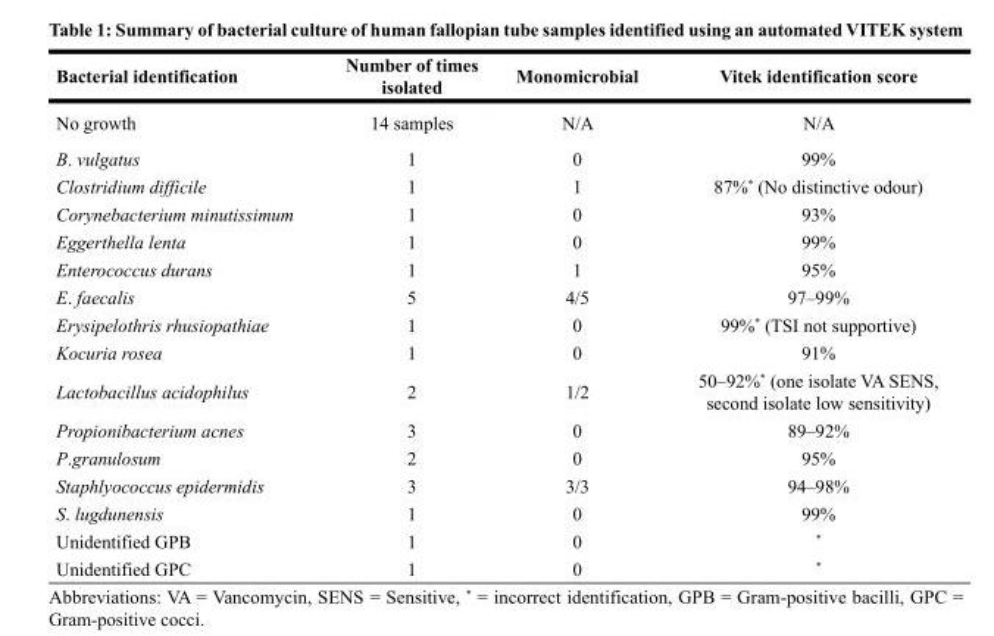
<table><thead><tr><td>Bacterial identification</td><td>Number of times isolated</td><td>Monomicrobial</td><td>Vitek identification score</td></tr></thead><tbody><tr><td>No growth</td><td>14 samples</td><td>N/A</td><td>N/A</td></tr><tr><td>B. vulgatus</td><td>1</td><td>0</td><td>99%</td></tr><tr><td>Clostridium difficile</td><td>1</td><td>1</td><td>87%* (No distinctive odour)</td></tr><tr><td>Corynebacterium minutissimum</td><td>1</td><td>0</td><td>93%</td></tr><tr><td>Eggerthella lenta</td><td>1</td><td>0</td><td>99%</td></tr><tr><td>Enterococcus durans</td><td>1</td><td>1</td><td>95%</td></tr><tr><td>E. faecalis</td><td>5</td><td>4/5</td><td>97–99%</td></tr><tr><td>Erysipelothris rhusiopathiae</td><td>1</td><td>0</td><td>99%* (TSI not supportive)</td></tr><tr><td>Kocuria rosea</td><td>1</td><td>0</td><td>91%</td></tr><tr><td>Lactobacillus acidophilus</td><td>2</td><td>1/2</td><td>50–92%* (one isolate VA SENS, second isolate low sensitivity)</td></tr><tr><td>Propionibacterium acnes</td><td>3</td><td>0</td><td>89–92%</td></tr><tr><td>P.granulosum</td><td>2</td><td>0</td><td>95%</td></tr><tr><td>Staphlyococcus epidermidis</td><td>3</td><td>3/3</td><td>94–98%</td></tr><tr><td>S. lugdunensis</td><td>1</td><td>0</td><td>99%</td></tr><tr><td>Unidentified GPB</td><td>1</td><td>0</td><td>*</td></tr><tr><td>Unidentified GPC</td><td>1</td><td>0</td><td>*</td></tr></tbody></table>